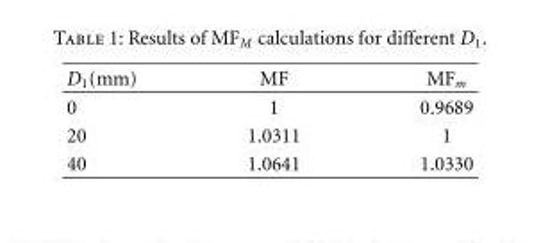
<table><tbody><tr><td>D<sub>1</sub>(mm)</td><td>MF</td><td>MF<sub>m</sub></td></tr><tr><td>0</td><td>1</td><td>0.9689</td></tr><tr><td>20</td><td>1.0311</td><td>1</td></tr><tr><td>40</td><td>1.0641</td><td>1.0330</td></tr></tbody></table>